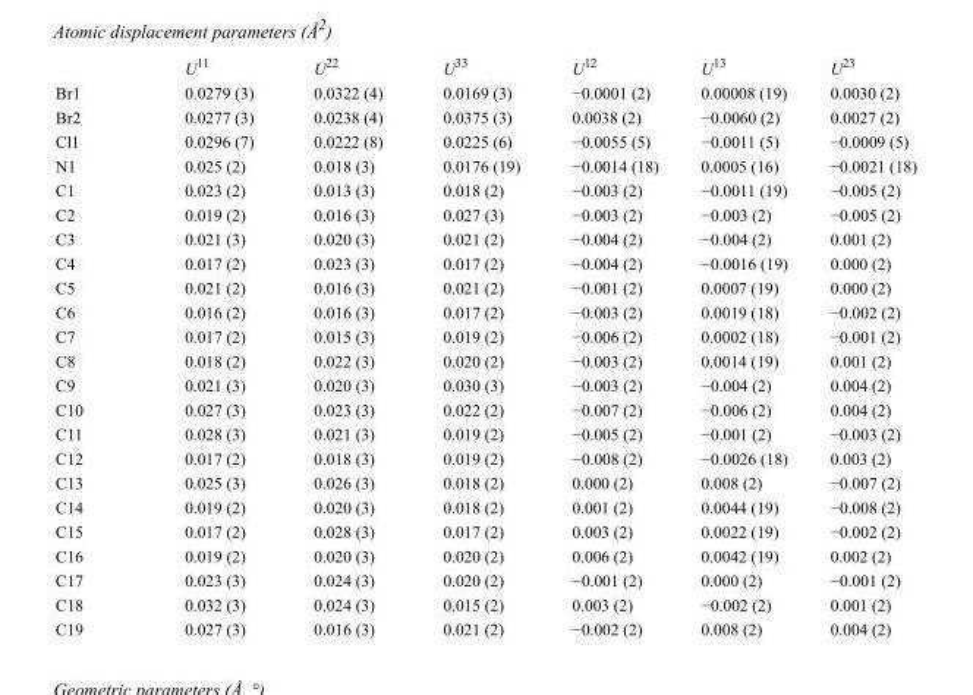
<table><thead><tr><td></td><td>U<sup>11</sup></td><td>U<sup>22</sup></td><td>U<sup>33</sup></td><td>U<sup>12</sup></td><td>U<sup>13</sup></td><td>U<sup>23</sup></td></tr></thead><tbody><tr><td>Br1</td><td>0.0279 (3)</td><td>0.0322 (4)</td><td>0.0169 (3)</td><td>−0.0001 (2)</td><td>0.00008 (19)</td><td>0.0030 (2)</td></tr><tr><td>Br2</td><td>0.0277 (3)</td><td>0.0238 (4)</td><td>0.0375 (3)</td><td>0.0038 (2)</td><td>−0.0060 (2)</td><td>0.0027 (2)</td></tr><tr><td>Cl1</td><td>0.0296 (7)</td><td>0.0222 (8)</td><td>0.0225 (6)</td><td>−0.0055 (5)</td><td>−0.0011 (5)</td><td>−0.0009 (5)</td></tr><tr><td>N1</td><td>0.025 (2)</td><td>0.018 (3)</td><td>0.0176 (19)</td><td>−0.0014 (18)</td><td>0.0005 (16)</td><td>−0.0021 (18)</td></tr><tr><td>C1</td><td>0.023 (2)</td><td>0.013 (3)</td><td>0.018 (2)</td><td>−0.003 (2)</td><td>−0.0011 (19)</td><td>−0.005 (2)</td></tr><tr><td>C2</td><td>0.019 (2)</td><td>0.016 (3)</td><td>0.027 (3)</td><td>−0.003 (2)</td><td>−0.003 (2)</td><td>−0.005 (2)</td></tr><tr><td>C3</td><td>0.021 (3)</td><td>0.020 (3)</td><td>0.021 (2)</td><td>−0.004 (2)</td><td>−0.004 (2)</td><td>0.001 (2)</td></tr><tr><td>C4</td><td>0.017 (2)</td><td>0.023 (3)</td><td>0.017 (2)</td><td>−0.004 (2)</td><td>−0.0016 (19)</td><td>0.000 (2)</td></tr><tr><td>C5</td><td>0.021 (2)</td><td>0.016 (3)</td><td>0.021 (2)</td><td>−0.001 (2)</td><td>0.0007 (19)</td><td>0.000 (2)</td></tr><tr><td>C6</td><td>0.016 (2)</td><td>0.016 (3)</td><td>0.017 (2)</td><td>−0.003 (2)</td><td>0.0019 (18)</td><td>−0.002 (2)</td></tr><tr><td>C7</td><td>0.017 (2)</td><td>0.015 (3)</td><td>0.019 (2)</td><td>−0.006 (2)</td><td>0.0002 (18)</td><td>−0.001 (2)</td></tr><tr><td>C8</td><td>0.018 (2)</td><td>0.022 (3)</td><td>0.020 (2)</td><td>−0.003 (2)</td><td>0.0014 (19)</td><td>0.001 (2)</td></tr><tr><td>C9</td><td>0.021 (3)</td><td>0.020 (3)</td><td>0.030 (3)</td><td>−0.003 (2)</td><td>−0.004 (2)</td><td>0.004 (2)</td></tr><tr><td>C10</td><td>0.027 (3)</td><td>0.023 (3)</td><td>0.022 (2)</td><td>−0.007 (2)</td><td>−0.006 (2)</td><td>0.004 (2)</td></tr><tr><td>C11</td><td>0.028 (3)</td><td>0.021 (3)</td><td>0.019 (2)</td><td>−0.005 (2)</td><td>−0.001 (2)</td><td>−0.003 (2)</td></tr><tr><td>C12</td><td>0.017 (2)</td><td>0.018 (3)</td><td>0.019 (2)</td><td>−0.008 (2)</td><td>−0.0026 (18)</td><td>0.003 (2)</td></tr><tr><td>C13</td><td>0.025 (3)</td><td>0.026 (3)</td><td>0.018 (2)</td><td>0.000 (2)</td><td>0.008 (2)</td><td>−0.007 (2)</td></tr><tr><td>C14</td><td>0.019 (2)</td><td>0.020 (3)</td><td>0.018 (2)</td><td>0.001 (2)</td><td>0.0044 (19)</td><td>−0.008 (2)</td></tr><tr><td>C15</td><td>0.017 (2)</td><td>0.028 (3)</td><td>0.017 (2)</td><td>0.003 (2)</td><td>0.0022 (19)</td><td>−0.002 (2)</td></tr><tr><td>C16</td><td>0.019 (2)</td><td>0.020 (3)</td><td>0.020 (2)</td><td>0.006 (2)</td><td>0.0042 (19)</td><td>0.002 (2)</td></tr><tr><td>C17</td><td>0.023 (3)</td><td>0.024 (3)</td><td>0.020 (2)</td><td>−0.001 (2)</td><td>0.000 (2)</td><td>−0.001 (2)</td></tr><tr><td>C18</td><td>0.032 (3)</td><td>0.024 (3)</td><td>0.015 (2)</td><td>0.003 (2)</td><td>−0.002 (2)</td><td>0.001 (2)</td></tr><tr><td>C19</td><td>0.027 (3)</td><td>0.016 (3)</td><td>0.021 (2)</td><td>−0.002 (2)</td><td>0.008 (2)</td><td>0.004 (2)</td></tr></tbody></table>